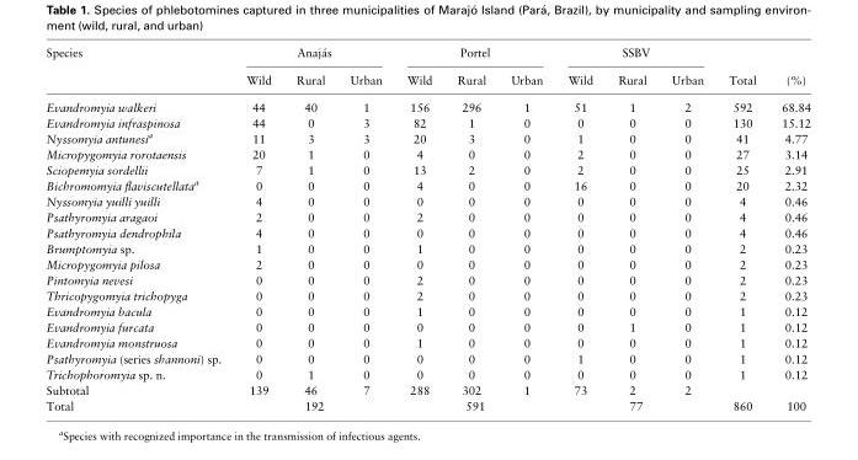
<table><thead><tr><td rowspan="2">Species</td><td colspan="3">Anaj�as</td><td colspan="3">Portel</td><td colspan="3">SSBV</td><td rowspan="2">Total</td><td rowspan="2">(%)</td></tr><tr><td>Wild</td><td>Rural</td><td>Urban</td><td>Wild</td><td>Rural</td><td>Urban</td><td>Wild</td><td>Rural</td><td>Urban</td></tr></thead><tbody><tr><td>Evandromyia walkeri</td><td>44</td><td>40</td><td>1</td><td>156</td><td>296</td><td>1</td><td>51</td><td>1</td><td>2</td><td>592</td><td>68.84</td></tr><tr><td>Evandromyia infraspinosa</td><td>44</td><td>0</td><td>3</td><td>82</td><td>1</td><td>0</td><td>0</td><td>0</td><td>0</td><td>130</td><td>15.12</td></tr><tr><td>Nyssomyia antunesi<sup>a</sup></td><td>11</td><td>3</td><td>3</td><td>20</td><td>3</td><td>0</td><td>1</td><td>0</td><td>0</td><td>41</td><td>4.77</td></tr><tr><td>Micropygomyia rorotaensis</td><td>20</td><td>1</td><td>0</td><td>4</td><td>0</td><td>0</td><td>2</td><td>0</td><td>0</td><td>27</td><td>3.14</td></tr><tr><td>Sciopemyia sordellii</td><td>7</td><td>1</td><td>0</td><td>13</td><td>2</td><td>0</td><td>2</td><td>0</td><td>0</td><td>25</td><td>2.91</td></tr><tr><td>Bichromomyia flaviscutellata<sup>a</sup></td><td>0</td><td>0</td><td>0</td><td>4</td><td>0</td><td>0</td><td>16</td><td>0</td><td>0</td><td>20</td><td>2.32</td></tr><tr><td>Nyssomyia yuilli yuilli</td><td>4</td><td>0</td><td>0</td><td>0</td><td>0</td><td>0</td><td>0</td><td>0</td><td>0</td><td>4</td><td>0.46</td></tr><tr><td>Psathyromyia aragaoi</td><td>2</td><td>0</td><td>0</td><td>2</td><td>0</td><td>0</td><td>0</td><td>0</td><td>0</td><td>4</td><td>0.46</td></tr><tr><td>Psathyromyia dendrophila</td><td>4</td><td>0</td><td>0</td><td>0</td><td>0</td><td>0</td><td>0</td><td>0</td><td>0</td><td>4</td><td>0.46</td></tr><tr><td>Brumptomyia sp.</td><td>1</td><td>0</td><td>0</td><td>1</td><td>0</td><td>0</td><td>0</td><td>0</td><td>0</td><td>2</td><td>0.23</td></tr><tr><td>Micropygomyia pilosa</td><td>2</td><td>0</td><td>0</td><td>0</td><td>0</td><td>0</td><td>0</td><td>0</td><td>0</td><td>2</td><td>0.23</td></tr><tr><td>Pintomyia nevesi</td><td>0</td><td>0</td><td>0</td><td>2</td><td>0</td><td>0</td><td>0</td><td>0</td><td>0</td><td>2</td><td>0.23</td></tr><tr><td>Thricopygomyia trichopyga</td><td>0</td><td>0</td><td>0</td><td>2</td><td>0</td><td>0</td><td>0</td><td>0</td><td>0</td><td>2</td><td>0.23</td></tr><tr><td>Evandromyia bacula</td><td>0</td><td>0</td><td>0</td><td>1</td><td>0</td><td>0</td><td>0</td><td>0</td><td>0</td><td>1</td><td>0.12</td></tr><tr><td>Evandromyia furcata</td><td>0</td><td>0</td><td>0</td><td>0</td><td>0</td><td>0</td><td>0</td><td>1</td><td>0</td><td>1</td><td>0.12</td></tr><tr><td>Evandromyia monstruosa</td><td>0</td><td>0</td><td>0</td><td>1</td><td>0</td><td>0</td><td>0</td><td>0</td><td>0</td><td>1</td><td>0.12</td></tr><tr><td>Psathyromyia (series shannoni) sp.</td><td>0</td><td>0</td><td>0</td><td>0</td><td>0</td><td>0</td><td>1</td><td>0</td><td>0</td><td>1</td><td>0.12</td></tr><tr><td>Trichophoromyia sp. n.</td><td>0</td><td>1</td><td>0</td><td>0</td><td>0</td><td>0</td><td>0</td><td>0</td><td>0</td><td>1</td><td>0.12</td></tr><tr><td>Subtotal</td><td>139</td><td>46</td><td>7</td><td>288</td><td>302</td><td>1</td><td>73</td><td>2</td><td>2</td><td></td><td></td></tr><tr><td>Total</td><td colspan="3">192</td><td colspan="3">591</td><td colspan="3">77</td><td>860</td><td>100</td></tr></tbody></table>